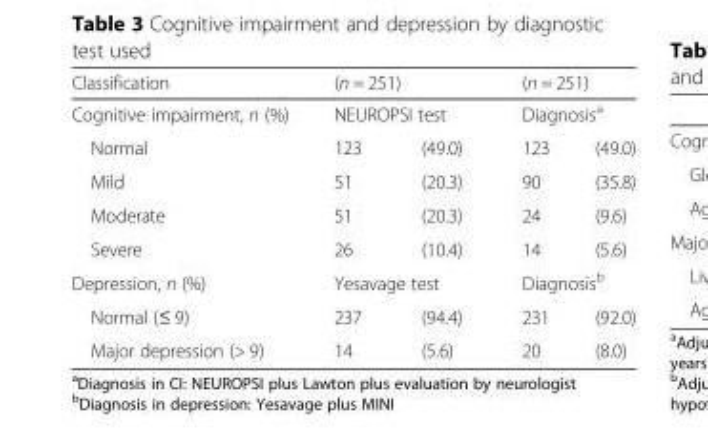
<table><thead><tr><td rowspan="3">Classification Cognitive impairment, n (%) Normal</td><td rowspan="2" colspan="2">(n = 251) NEUROPSI test</td><td rowspan="2" colspan="2">(n = 251) Diagnosis<sup>a</sup></td></tr><tr></tr><tr><td>123</td><td>(49.0)</td><td>123</td><td>(49.0)</td></tr></thead><tbody><tr><td>Mild</td><td>51</td><td>(20.3)</td><td>90</td><td>(35.8)</td></tr><tr><td>Moderate</td><td>51</td><td>(20.3)</td><td>24</td><td>(9.6)</td></tr><tr><td>Severe</td><td>26</td><td>(10.4)</td><td>14</td><td>(5.6)</td></tr><tr><td>Depression, n (%)</td><td colspan="2">Yesavage test</td><td colspan="2">Diagnosis<sup>b</sup></td></tr><tr><td>Normal (≤ 9)</td><td>237</td><td>(94.4)</td><td>231</td><td>(92.0)</td></tr><tr><td>Major depression (&gt; 9)</td><td>14</td><td>(5.6)</td><td>20</td><td>(8.0)</td></tr></tbody></table>